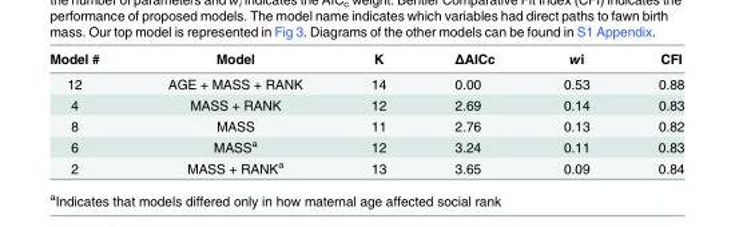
<table><thead><tr><td>Model #</td><td>Model</td><td>K</td><td>ΔAICc</td><td>wi</td><td>CFI</td></tr></thead><tbody><tr><td>12</td><td>AGE + MASS + RANK</td><td>14</td><td>0.00</td><td>0.53</td><td>0.88</td></tr><tr><td>4</td><td>MASS + RANK</td><td>12</td><td>2.69</td><td>0.14</td><td>0.83</td></tr><tr><td>8</td><td>MASS</td><td>11</td><td>2.76</td><td>0.13</td><td>0.82</td></tr><tr><td>6</td><td>MASS<sup>a</sup></td><td>12</td><td>3.24</td><td>0.11</td><td>0.83</td></tr><tr><td>2</td><td>MASS + RANK<sup>a</sup></td><td>13</td><td>3.65</td><td>0.09</td><td>0.84</td></tr></tbody></table>